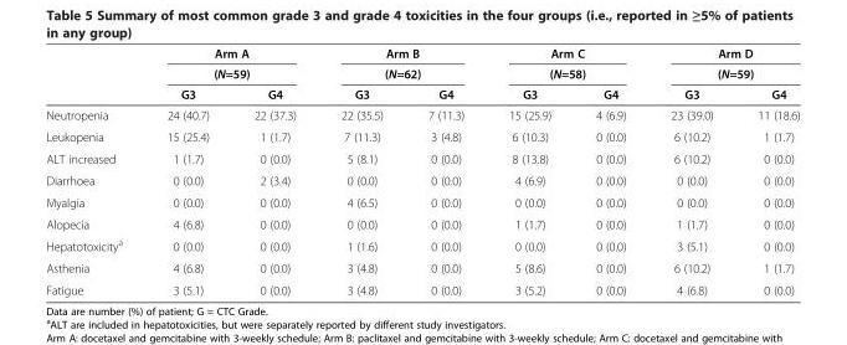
<table><thead><tr><td rowspan="3"></td><td rowspan="2" colspan="2">Arm A (N=59)</td><td rowspan="2" colspan="2">Arm B (N=62)</td><td rowspan="2" colspan="2">Arm C (N=58)</td><td rowspan="2" colspan="2">Arm D (N=59)</td></tr><tr></tr><tr><td>G3</td><td>G4</td><td>G3</td><td>G4</td><td>G3</td><td>G4</td><td>G3</td><td>G4</td></tr></thead><tbody><tr><td>Neutropenia</td><td>24 (40.7)</td><td>22 (37.3)</td><td>22 (35.5)</td><td>7 (11.3)</td><td>15 (25.9)</td><td>4 (6.9)</td><td>23 (39.0)</td><td>11 (18.6)</td></tr><tr><td>Leukopenia</td><td>15 (25.4)</td><td>1 (1.7)</td><td>7 (11.3)</td><td>3 (4.8)</td><td>6 (10.3)</td><td>0 (0.0)</td><td>6 (10.2)</td><td>1 (1.7)</td></tr><tr><td>ALT increased</td><td>1 (1.7)</td><td>0 (0.0)</td><td>5 (8.1)</td><td>0 (0.0)</td><td>8 (13.8)</td><td>0 (0.0)</td><td>6 (10.2)</td><td>0 (0.0)</td></tr><tr><td>Diarrhoea</td><td>0 (0.0)</td><td>2 (3.4)</td><td>0 (0.0)</td><td>0 (0.0)</td><td>4 (6.9)</td><td>0 (0.0)</td><td>0 (0.0)</td><td>0 (0.0)</td></tr><tr><td>Myalgia</td><td>0 (0.0)</td><td>0 (0.0)</td><td>4 (6.5)</td><td>0 (0.0)</td><td>0 (0.0)</td><td>0 (0.0)</td><td>0 (0.0)</td><td>0 (0.0)</td></tr><tr><td>Alopecia</td><td>4 (6.8)</td><td>0 (0.0)</td><td>0 (0.0)</td><td>0 (0.0)</td><td>1 (1.7)</td><td>0 (0.0)</td><td>1 (1.7)</td><td>0 (0.0)</td></tr><tr><td>Hepatotoxicity<sup>a</sup></td><td>0 (0.0)</td><td>0 (0.0)</td><td>1 (1.6)</td><td>0 (0.0)</td><td>0 (0.0)</td><td>0 (0.0)</td><td>3 (5.1)</td><td>0 (0.0)</td></tr><tr><td>Asthenia</td><td>4 (6.8)</td><td>0 (0.0)</td><td>3 (4.8)</td><td>0 (0.0)</td><td>5 (8.6)</td><td>0 (0.0)</td><td>6 (10.2)</td><td>1 (1.7)</td></tr><tr><td>Fatigue</td><td>3 (5.1)</td><td>0 (0.0)</td><td>3 (4.8)</td><td>0 (0.0)</td><td>3 (5.2)</td><td>0 (0.0)</td><td>4 (6.8)</td><td>0 (0.0)</td></tr></tbody></table>